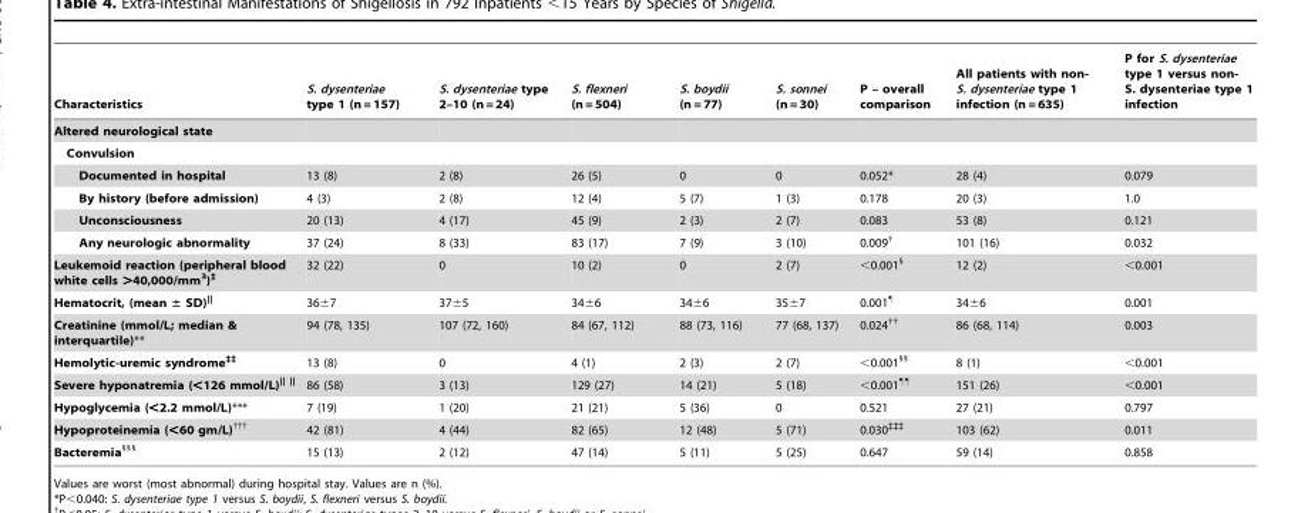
<table><thead><tr><td>Characteristics</td><td>S. dysenteriae type 1 (n = 157)</td><td>S. dysenteriae type 2–10 (n = 24)</td><td>S. flexneri (n = 504)</td><td>S. boydii (n = 77)</td><td>S. sonnei (n = 30)</td><td>P – overall comparison</td><td>All patients with non- S. dysenteriae type 1 infection (n = 635)</td><td>P for S. dysenteriae type 1 versus non- S. dysenteriae type 1 infection</td></tr></thead><tbody><tr><td colspan="9">Altered neurological state</td></tr><tr><td colspan="9">Convulsion</td></tr><tr><td>Documented in hospital</td><td>13 (8)</td><td>2 (8)</td><td>26 (5)</td><td>0</td><td>0</td><td>0.052*</td><td>28 (4)</td><td>0.079</td></tr><tr><td>By history (before admission)</td><td>4 (3)</td><td>2 (8)</td><td>12 (4)</td><td>5 (7)</td><td>1 (3)</td><td>0.178</td><td>20 (3)</td><td>1.0</td></tr><tr><td>Unconsciousness</td><td>20 (13)</td><td>4 (17)</td><td>45 (9)</td><td>2 (3)</td><td>2 (7)</td><td>0.083</td><td>53 (8)</td><td>0.121</td></tr><tr><td>Any neurologic abnormality</td><td>37 (24)</td><td>8 (33)</td><td>83 (17)</td><td>7 (9)</td><td>3 (10)</td><td>0.009†</td><td>101 (16)</td><td>0.032</td></tr><tr><td>Leukemoid reaction (peripheral blood white cells &gt;40,000/mm<sup>3</sup>)‡</td><td>32 (22)</td><td>0</td><td>10 (2)</td><td>0</td><td>2 (7)</td><td>&lt;0.001§</td><td>12 (2)</td><td>&lt;0.001</td></tr><tr><td>Hematocrit, (mean ± SD)||</td><td>36±7</td><td>37±5</td><td>34±6</td><td>34±6</td><td>35±7</td><td>0.001<sup>¶</sup></td><td>34±6</td><td>0.001</td></tr><tr><td>Creatinine (mmol/L; median &amp; interquartile)**</td><td>94 (78, 135)</td><td>107 (72, 160)</td><td>84 (67, 112)</td><td>88 (73, 116)</td><td>77 (68, 137)</td><td>0.024††</td><td>86 (68, 114)</td><td>0.003</td></tr><tr><td>Hemolytic-uremic syndrome‡‡</td><td>13 (8)</td><td>0</td><td>4 (1)</td><td>2 (3)</td><td>2 (7)</td><td>&lt;0.001§§</td><td>8 (1)</td><td>&lt;0.001</td></tr><tr><td>Severe hyponatremia (&lt;126 mmol/L)|| ||</td><td>86 (58)</td><td>3 (13)</td><td>129 (27)</td><td>14 (21)</td><td>5 (18)</td><td>&lt;0.001¶¶</td><td>151 (26)</td><td>&lt;0.001</td></tr><tr><td>Hypoglycemia (&lt;2.2 mmol/L)***</td><td>7 (19)</td><td>1 (20)</td><td>21 (21)</td><td>5 (36)</td><td>0</td><td>0.521</td><td>27 (21)</td><td>0.797</td></tr><tr><td>Hypoproteinemia (&lt;60 gm/L)†††</td><td>42 (81)</td><td>4 (44)</td><td>82 (65)</td><td>12 (48)</td><td>5 (71)</td><td>0.030‡‡‡</td><td>103 (62)</td><td>0.011</td></tr><tr><td>Bacteremia§§§</td><td>15 (13)</td><td>2 (12)</td><td>47 (14)</td><td>5 (11)</td><td>5 (25)</td><td>0.647</td><td>59 (14)</td><td>0.858</td></tr></tbody></table>